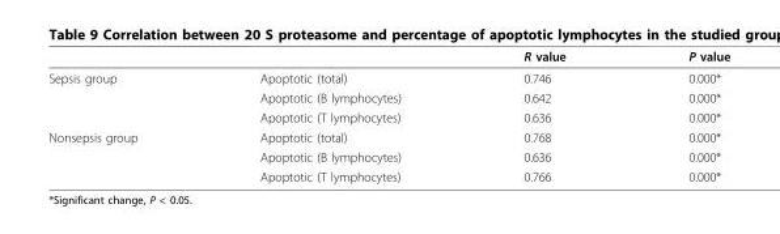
<table><thead><tr><td></td><td></td><td>R value</td><td>P value</td></tr></thead><tbody><tr><td rowspan="3">Sepsis group</td><td>Apoptotic (total)</td><td>0.746</td><td>0.000*</td></tr><tr><td>Apoptotic (B lymphocytes)</td><td>0.642</td><td>0.000*</td></tr><tr><td>Apoptotic (T lymphocytes)</td><td>0.636</td><td>0.000*</td></tr><tr><td rowspan="3">Nonsepsis group</td><td>Apoptotic (total)</td><td>0.768</td><td>0.000*</td></tr><tr><td>Apoptotic (B lymphocytes)</td><td>0.636</td><td>0.000*</td></tr><tr><td>Apoptotic (T lymphocytes)</td><td>0.766</td><td>0.000*</td></tr></tbody></table>